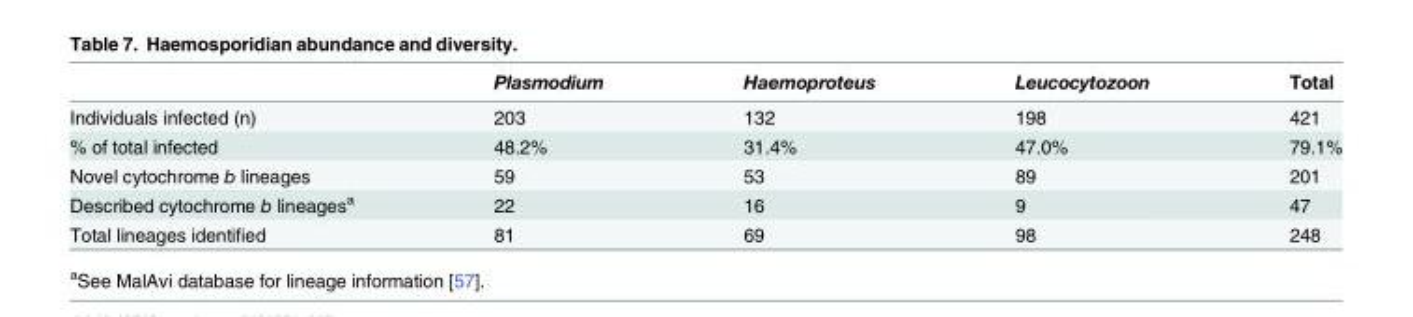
<table><thead><tr><td></td><td>Plasmodium</td><td>Haemoproteus</td><td>Leucocytozoon</td><td>Total</td></tr></thead><tbody><tr><td>Individuals infected (n)</td><td>203</td><td>132</td><td>198</td><td>421</td></tr><tr><td>% of total infected</td><td>48.2%</td><td>31.4%</td><td>47.0%</td><td>79.1%</td></tr><tr><td>Novel cytochrome b lineages</td><td>59</td><td>53</td><td>89</td><td>201</td></tr><tr><td>Described cytochrome b lineages<sup>a</sup></td><td>22</td><td>16</td><td>9</td><td>47</td></tr><tr><td>Total lineages identified</td><td>81</td><td>69</td><td>98</td><td>248</td></tr></tbody></table>